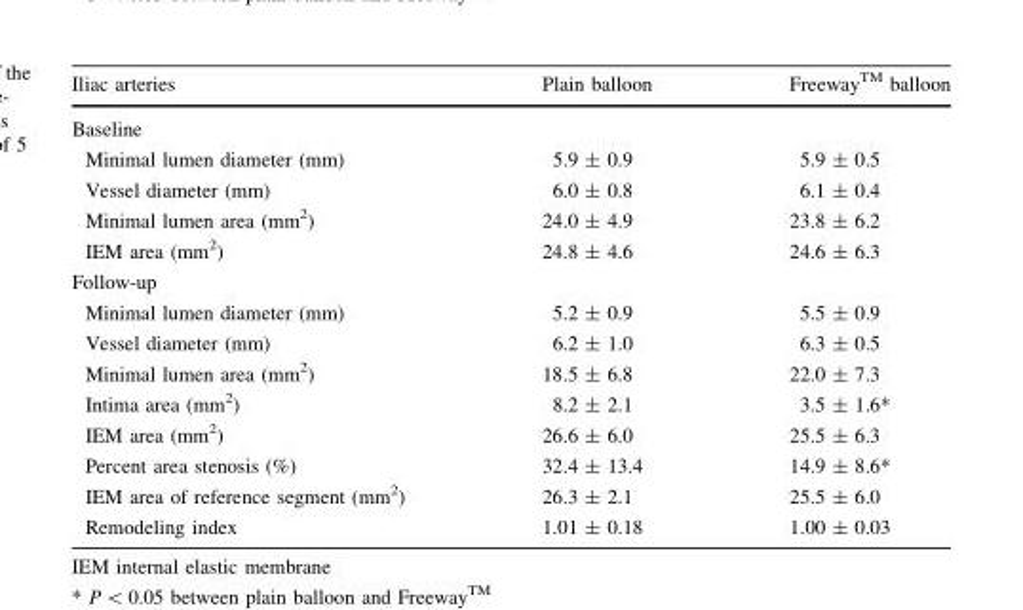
<table><thead><tr><td>Iliac arteries</td><td>Plain balloon</td><td>FreewayTM balloon</td></tr></thead><tbody><tr><td colspan="3">Baseline</td></tr><tr><td>Minimal lumen diameter (mm)</td><td>5.9 ± 0.9</td><td>5.9 ± 0.5</td></tr><tr><td>Vessel diameter (mm)</td><td>6.0 ± 0.8</td><td>6.1 ± 0.4</td></tr><tr><td>Minimal lumen area (mm<sup>2</sup>)</td><td>24.0 ± 4.9</td><td>23.8 ± 6.2</td></tr><tr><td>IEM area (mm<sup>2</sup>)</td><td>24.8 ± 4.6</td><td>24.6 ± 6.3</td></tr><tr><td colspan="3">Follow-up</td></tr><tr><td>Minimal lumen diameter (mm)</td><td>5.2 ± 0.9</td><td>5.5 ± 0.9</td></tr><tr><td>Vessel diameter (mm)</td><td>6.2 ± 1.0</td><td>6.3 ± 0.5</td></tr><tr><td>Minimal lumen area (mm<sup>2</sup>)</td><td>18.5 ± 6.8</td><td>22.0 ± 7.3</td></tr><tr><td>Intima area (mm<sup>2</sup>)</td><td>8.2 ± 2.1</td><td>3.5 ± 1.6*</td></tr><tr><td>IEM area (mm<sup>2</sup>)</td><td>26.6 ± 6.0</td><td>25.5 ± 6.3</td></tr><tr><td>Percent area stenosis (%)</td><td>32.4 ± 13.4</td><td>14.9 ± 8.6*</td></tr><tr><td>IEM area of reference segment (mm<sup>2</sup>)</td><td>26.3 ± 2.1</td><td>25.5 ± 6.0</td></tr><tr><td>Remodeling index</td><td>1.01 ± 0.18</td><td>1.00 ± 0.03</td></tr></tbody></table>